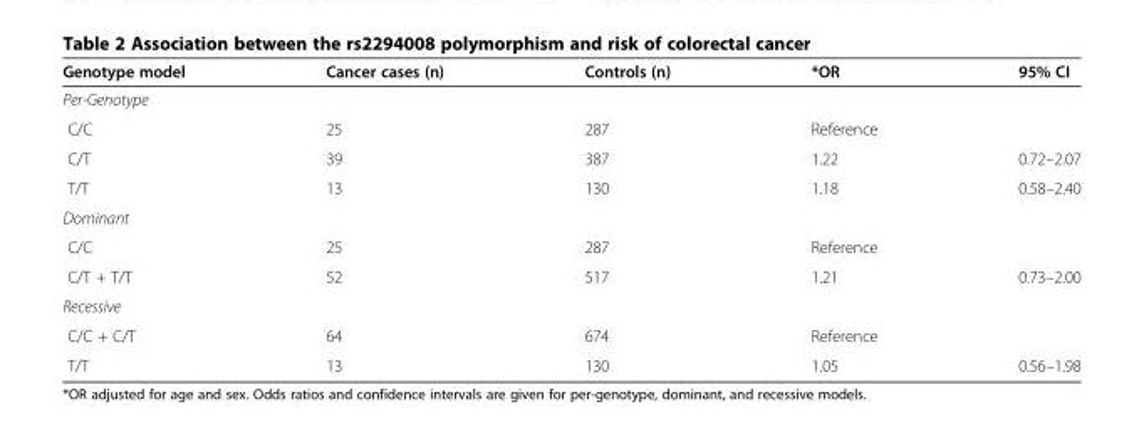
<table><thead><tr><td>Genotype model</td><td>Cancer cases (n)</td><td>Controls (n)</td><td>*OR</td><td>95% CI</td></tr></thead><tbody><tr><td colspan="5">Per-Genotype</td></tr><tr><td>C/C</td><td>25</td><td>287</td><td>Reference</td><td></td></tr><tr><td>C/T</td><td>39</td><td>387</td><td>1.22</td><td>0.72–2.07</td></tr><tr><td>T/T</td><td>13</td><td>130</td><td>1.18</td><td>0.58–2.40</td></tr><tr><td colspan="5">Dominant</td></tr><tr><td>C/C</td><td>25</td><td>287</td><td>Reference</td><td></td></tr><tr><td>C/T + T/T</td><td>52</td><td>517</td><td>1.21</td><td>0.73–2.00</td></tr><tr><td colspan="5">Recessive</td></tr><tr><td>C/C + C/T</td><td>64</td><td>674</td><td>Reference</td><td></td></tr><tr><td>T/T</td><td>13</td><td>130</td><td>1.05</td><td>0.56–1.98</td></tr></tbody></table>